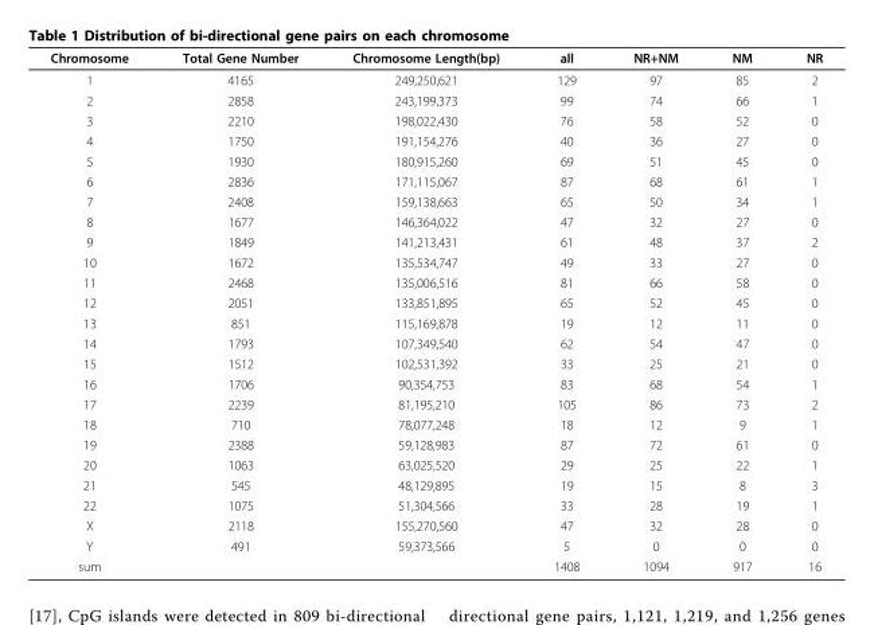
<table><thead><tr><td>Chromosome</td><td>Total Gene Number</td><td>Chromosome Length(bp)</td><td>all</td><td>NR+NM</td><td>NM</td><td>NR</td></tr></thead><tbody><tr><td>1</td><td>4165</td><td>249,250,621</td><td>129</td><td>97</td><td>85</td><td>2</td></tr><tr><td>2</td><td>2858</td><td>243,199,373</td><td>99</td><td>74</td><td>66</td><td>1</td></tr><tr><td>3</td><td>2210</td><td>198,022,430</td><td>76</td><td>58</td><td>52</td><td>0</td></tr><tr><td>4</td><td>1750</td><td>191,154,276</td><td>40</td><td>36</td><td>27</td><td>0</td></tr><tr><td>5</td><td>1930</td><td>180,915,260</td><td>69</td><td>51</td><td>45</td><td>0</td></tr><tr><td>6</td><td>2836</td><td>171,115,067</td><td>87</td><td>68</td><td>61</td><td>1</td></tr><tr><td>7</td><td>2408</td><td>159,138,663</td><td>65</td><td>50</td><td>34</td><td>1</td></tr><tr><td>8</td><td>1677</td><td>146,364,022</td><td>47</td><td>32</td><td>27</td><td>0</td></tr><tr><td>9</td><td>1849</td><td>141,213,431</td><td>61</td><td>48</td><td>37</td><td>2</td></tr><tr><td>10</td><td>1672</td><td>135,534,747</td><td>49</td><td>33</td><td>27</td><td>0</td></tr><tr><td>11</td><td>2468</td><td>135,006,516</td><td>81</td><td>66</td><td>58</td><td>0</td></tr><tr><td>12</td><td>2051</td><td>133,851,895</td><td>65</td><td>52</td><td>45</td><td>0</td></tr><tr><td>13</td><td>851</td><td>115,169,878</td><td>19</td><td>12</td><td>11</td><td>0</td></tr><tr><td>14</td><td>1793</td><td>107,349,540</td><td>62</td><td>54</td><td>47</td><td>0</td></tr><tr><td>15</td><td>1512</td><td>102,531,392</td><td>33</td><td>25</td><td>21</td><td>0</td></tr><tr><td>16</td><td>1706</td><td>90,354,753</td><td>83</td><td>68</td><td>54</td><td>1</td></tr><tr><td>17</td><td>2239</td><td>81,195,210</td><td>105</td><td>86</td><td>73</td><td>2</td></tr><tr><td>18</td><td>710</td><td>78,077,248</td><td>18</td><td>12</td><td>9</td><td>1</td></tr><tr><td>19</td><td>2388</td><td>59,128,983</td><td>87</td><td>72</td><td>61</td><td>0</td></tr><tr><td>20</td><td>1063</td><td>63,025,520</td><td>29</td><td>25</td><td>22</td><td>1</td></tr><tr><td>21</td><td>545</td><td>48,129,895</td><td>19</td><td>15</td><td>8</td><td>3</td></tr><tr><td>22</td><td>1075</td><td>51,304,566</td><td>33</td><td>28</td><td>19</td><td>1</td></tr><tr><td>X</td><td>2118</td><td>155,270,560</td><td>47</td><td>32</td><td>28</td><td>0</td></tr><tr><td>Y</td><td>491</td><td>59,373,566</td><td>5</td><td>0</td><td>0</td><td>0</td></tr><tr><td>sum</td><td></td><td></td><td>1408</td><td>1094</td><td>917</td><td>16</td></tr></tbody></table>